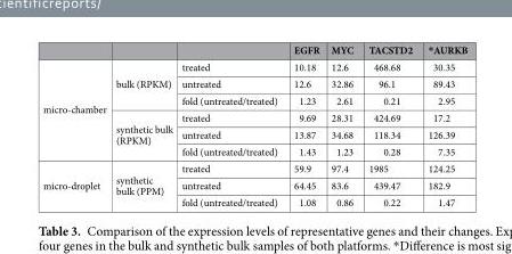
<table><thead><tr><td></td><td></td><td></td><td>EGFR</td><td>MYC</td><td>TACSTD2</td><td>*AURKB</td></tr></thead><tbody><tr><td rowspan="6">micro-chamber</td><td rowspan="3">bulk (RPKM)</td><td>treated</td><td>10.18</td><td>12.6</td><td>468.68</td><td>30.35</td></tr><tr><td>untreated</td><td>12.6</td><td>32.86</td><td>96.1</td><td>89.43</td></tr><tr><td>fold (untreated/treated)</td><td>1.23</td><td>2.61</td><td>0.21</td><td>2.95</td></tr><tr><td rowspan="3">synthetic bulk (RPKM)</td><td>treated</td><td>9.69</td><td>28.31</td><td>424.69</td><td>17.2</td></tr><tr><td>untreated</td><td>13.87</td><td>34.68</td><td>118.34</td><td>126.39</td></tr><tr><td>fold (untreated/treated)</td><td>1.43</td><td>1.23</td><td>0.28</td><td>7.35</td></tr><tr><td rowspan="3">micro-droplet</td><td rowspan="3">synthetic bulk (PPM)</td><td>treated</td><td>59.9</td><td>97.4</td><td>1985</td><td>124.25</td></tr><tr><td>untreated</td><td>64.45</td><td>83.6</td><td>439.47</td><td>182.9</td></tr><tr><td>fold (untreated/treated)</td><td>1.08</td><td>0.86</td><td>0.22</td><td>1.47</td></tr></tbody></table>